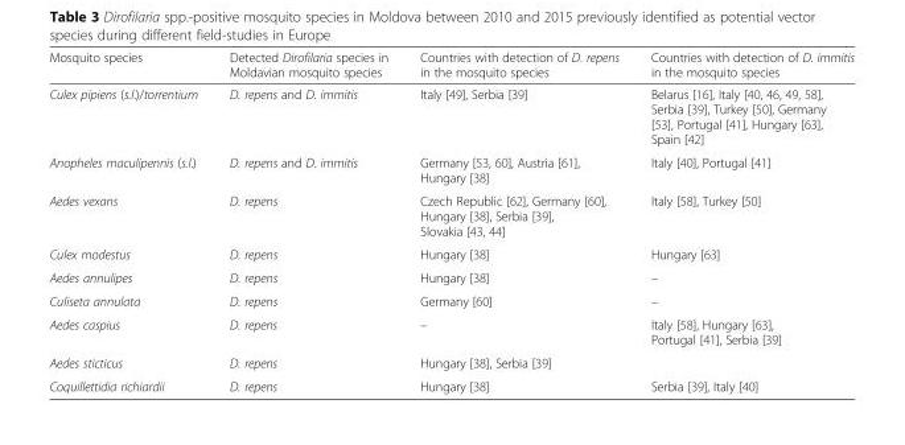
<table><thead><tr><td>Mosquito species</td><td>Detected Dirofilaria species in Moldavian mosquito species</td><td>Countries with detection of D. repens in the mosquito species</td><td>Countries with detection of D. immitis in the mosquito species</td></tr></thead><tbody><tr><td>Culex pipiens (s.l.)/torrentium</td><td>D. repens and D. immitis</td><td>Italy [49], Serbia [39]</td><td>Belarus [16], Italy [40, 46, 49, 58], Serbia [39], Turkey [50], Germany [53], Portugal [41], Hungary [63], Spain [42]</td></tr><tr><td>Anopheles maculipennis (s.l.)</td><td>D. repens and D. immitis</td><td>Germany [53, 60], Austria [61], Hungary [38]</td><td>Italy [40], Portugal [41]</td></tr><tr><td>Aedes vexans</td><td>D. repens</td><td>Czech Republic [62], Germany [60], Hungary [38], Serbia [39], Slovakia [43, 44]</td><td>Italy [58], Turkey [50]</td></tr><tr><td>Culex modestus</td><td>D. repens</td><td>Hungary [38]</td><td>Hungary [63]</td></tr><tr><td>Aedes annulipes</td><td>D. repens</td><td>Hungary [38]</td><td>–</td></tr><tr><td>Culiseta annulata</td><td>D. repens</td><td>Germany [60]</td><td>–</td></tr><tr><td>Aedes caspius</td><td>D. repens</td><td>–</td><td>Italy [58], Hungary [63], Portugal [41], Serbia [39]</td></tr><tr><td>Aedes sticticus</td><td>D. repens</td><td>Hungary [38], Serbia [39]</td><td></td></tr><tr><td>Coquillettidia richiardii</td><td>D. repens</td><td>Hungary [38]</td><td>Serbia [39], Italy [40]</td></tr></tbody></table>